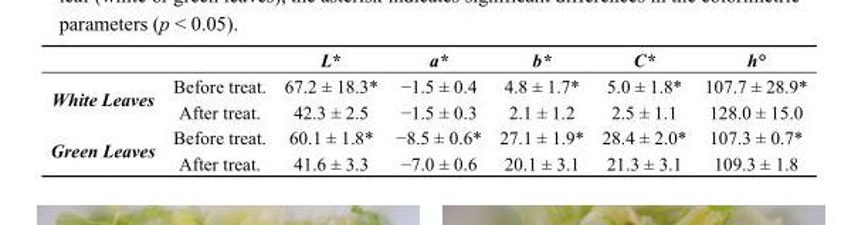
<table><thead><tr><td></td><td></td><td>L*</td><td>a*</td><td>b*</td><td>C*</td><td>h°</td></tr></thead><tbody><tr><td rowspan="2">White Leaves</td><td>Before treat.</td><td>67.2 ± 18.3*</td><td>−1.5 ± 0.4</td><td>4.8 ± 1.7*</td><td>5.0 ± 1.8*</td><td>107.7 ± 28.9*</td></tr><tr><td>After treat.</td><td>42.3 ± 2.5</td><td>−1.5 ± 0.3</td><td>2.1 ± 1.2</td><td>2.5 ± 1.1</td><td>128.0 ± 15.0</td></tr><tr><td rowspan="2">Green Leaves</td><td>Before treat.</td><td>60.1 ± 1.8*</td><td>−8.5 ± 0.6*</td><td>27.1 ± 1.9*</td><td>28.4 ± 2.0*</td><td>107.3 ± 0.7*</td></tr><tr><td>After treat.</td><td>41.6 ± 3.3</td><td>−7.0 ± 0.6</td><td>20.1 ± 3.1</td><td>21.3 ± 3.1</td><td>109.3 ± 1.8</td></tr></tbody></table>